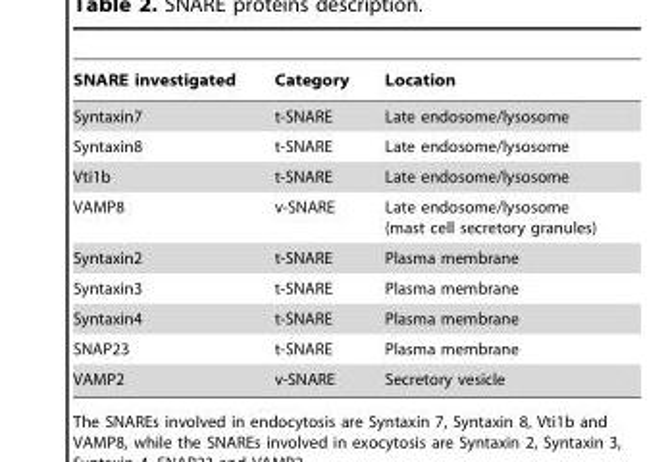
<table><thead><tr><td>SNARE investigated</td><td>Category</td><td>Location</td></tr></thead><tbody><tr><td>Syntaxin7</td><td>t-SNARE</td><td>Late endosome/lysosome</td></tr><tr><td>Syntaxin8</td><td>t-SNARE</td><td>Late endosome/lysosome</td></tr><tr><td>Vti1b</td><td>t-SNARE</td><td>Late endosome/lysosome</td></tr><tr><td>VAMP8</td><td>v-SNARE</td><td>Late endosome/lysosome (mast cell secretory granules)</td></tr><tr><td>Syntaxin2</td><td>t-SNARE</td><td>Plasma membrane</td></tr><tr><td>Syntaxin3</td><td>t-SNARE</td><td>Plasma membrane</td></tr><tr><td>Syntaxin4</td><td>t-SNARE</td><td>Plasma membrane</td></tr><tr><td>SNAP23</td><td>t-SNARE</td><td>Plasma membrane</td></tr><tr><td>VAMP2</td><td>v-SNARE</td><td>Secretory vesicle</td></tr></tbody></table>